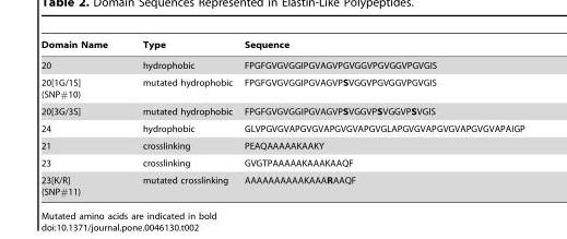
<table><thead><tr><td>Domain Name</td><td>Type</td><td>Sequence</td></tr></thead><tbody><tr><td>20</td><td>hydrophobic</td><td>FPGFGVGVGGIPGVAGVPGVGGVPGVGGVPGVGIS</td></tr><tr><td>20[1G/1S] (SNP#10)</td><td>mutated hydrophobic</td><td>FPGFGVGVGGIPGVAGVPSVGGVPGVGGVPGVGIS</td></tr><tr><td>20[3G/3S]</td><td>mutated hydrophobic</td><td>FPGFGVGVGGIPGVAGVPSVGGVPSVGGVPSVGIS</td></tr><tr><td>24</td><td>hydrophobic</td><td>GLVPGVGVAPGVGVAPGVGVAPGVGLAPGVGVAPGVGVAPGVGVAPAIGP</td></tr><tr><td>21</td><td>crosslinking</td><td>PEAQAAAAAKAAKY</td></tr><tr><td>23</td><td>crosslinking</td><td>GVGTPAAAAAKAAAKAAQF</td></tr><tr><td>23[K/R] (SNP#11)</td><td>mutated crosslinking</td><td>AAAAAAAAAAKAAARAAQF</td></tr></tbody></table>